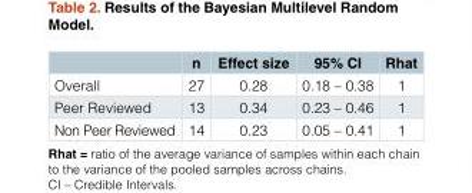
<table><thead><tr><td></td><td>n</td><td>Effect size</td><td>95% CI</td><td>Rhat</td></tr></thead><tbody><tr><td>Overall</td><td>27</td><td>0.28</td><td>0.18 – 0.38</td><td>1</td></tr><tr><td>Peer Reviewed</td><td>13</td><td>0.34</td><td>0.23 – 0.46</td><td>1</td></tr><tr><td>Non Peer Reviewed</td><td>14</td><td>0.23</td><td>0.05 – 0.41</td><td>1</td></tr></tbody></table>